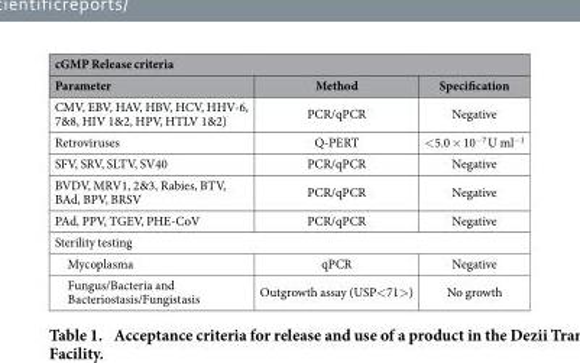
<table><thead><tr><td colspan="3">cGMP Release criteria</td></tr><tr><td>Parameter</td><td>Method</td><td>Specification</td></tr></thead><tbody><tr><td>CMV, EBV, HAV, HBV, HCV, HHV-6, 7&amp;8, HIV 1&amp;2, HPV, HTLV 1&amp;2)</td><td>PCR/qPCR</td><td>Negative</td></tr><tr><td>Retroviruses</td><td>Q-PERT</td><td>&lt; 5.0 × 10<sup>−7</sup> U ml<sup>−1</sup></td></tr><tr><td>SFV, SRV, SLTV, SV40</td><td>PCR/qPCR</td><td>Negative</td></tr><tr><td>BVDV, MRV1, 2&amp;3, Rabies, BTV, BAd, BPV, BRSV</td><td>PCR/qPCR</td><td>Negative</td></tr><tr><td>PAd, PPV, TGEV, PHE-CoV</td><td>PCR/qPCR</td><td>Negative</td></tr><tr><td colspan="3">Sterility testing</td></tr><tr><td>Mycoplasma</td><td>qPCR</td><td>Negative</td></tr><tr><td>Fungus/Bacteria and Bacteriostasis/Fungistasis</td><td>Outgrowth assay (USP&lt; 71&gt; )</td><td>No growth</td></tr></tbody></table>